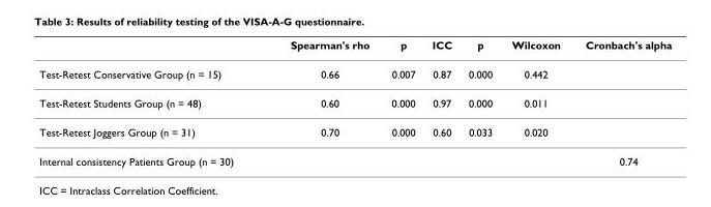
<table><thead><tr><td></td><td>Spearman&#x27;s rho</td><td>p</td><td>ICC</td><td>p</td><td>Wilcoxon</td><td>Cronbach&#x27;s alpha</td></tr></thead><tbody><tr><td>Test-Retest Conservative Group (n = 15)</td><td>0.66</td><td>0.007</td><td>0.87</td><td>0.000</td><td>0.442</td><td></td></tr><tr><td>Test-Retest Students Group (n = 48)</td><td>0.60</td><td>0.000</td><td>0.97</td><td>0.000</td><td>0.011</td><td></td></tr><tr><td>Test-Retest Joggers Group (n = 31)</td><td>0.70</td><td>0.000</td><td>0.60</td><td>0.033</td><td>0.020</td><td></td></tr><tr><td>Internal consistency Patients Group (n = 30)</td><td></td><td></td><td></td><td></td><td></td><td>0.74</td></tr></tbody></table>